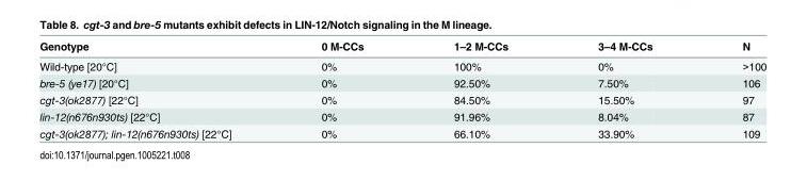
<table><thead><tr><td>Genotype</td><td>0 M-CCs</td><td>1–2 M-CCs</td><td>3–4 M-CCs</td><td>N</td></tr></thead><tbody><tr><td>Wild-type [20°C]</td><td>0%</td><td>100%</td><td>0%</td><td>&gt;100</td></tr><tr><td>bre-5 (ye17) [20°C]</td><td>0%</td><td>92.50%</td><td>7.50%</td><td>106</td></tr><tr><td>cgt-3(ok2877) [22°C]</td><td>0%</td><td>84.50%</td><td>15.50%</td><td>97</td></tr><tr><td>lin-12(n676n930ts) [22°C]</td><td>0%</td><td>91.96%</td><td>8.04%</td><td>87</td></tr><tr><td>cgt-3(ok2877); lin-12(n676n930ts) [22°C]</td><td>0%</td><td>66.10%</td><td>33.90%</td><td>109</td></tr></tbody></table>